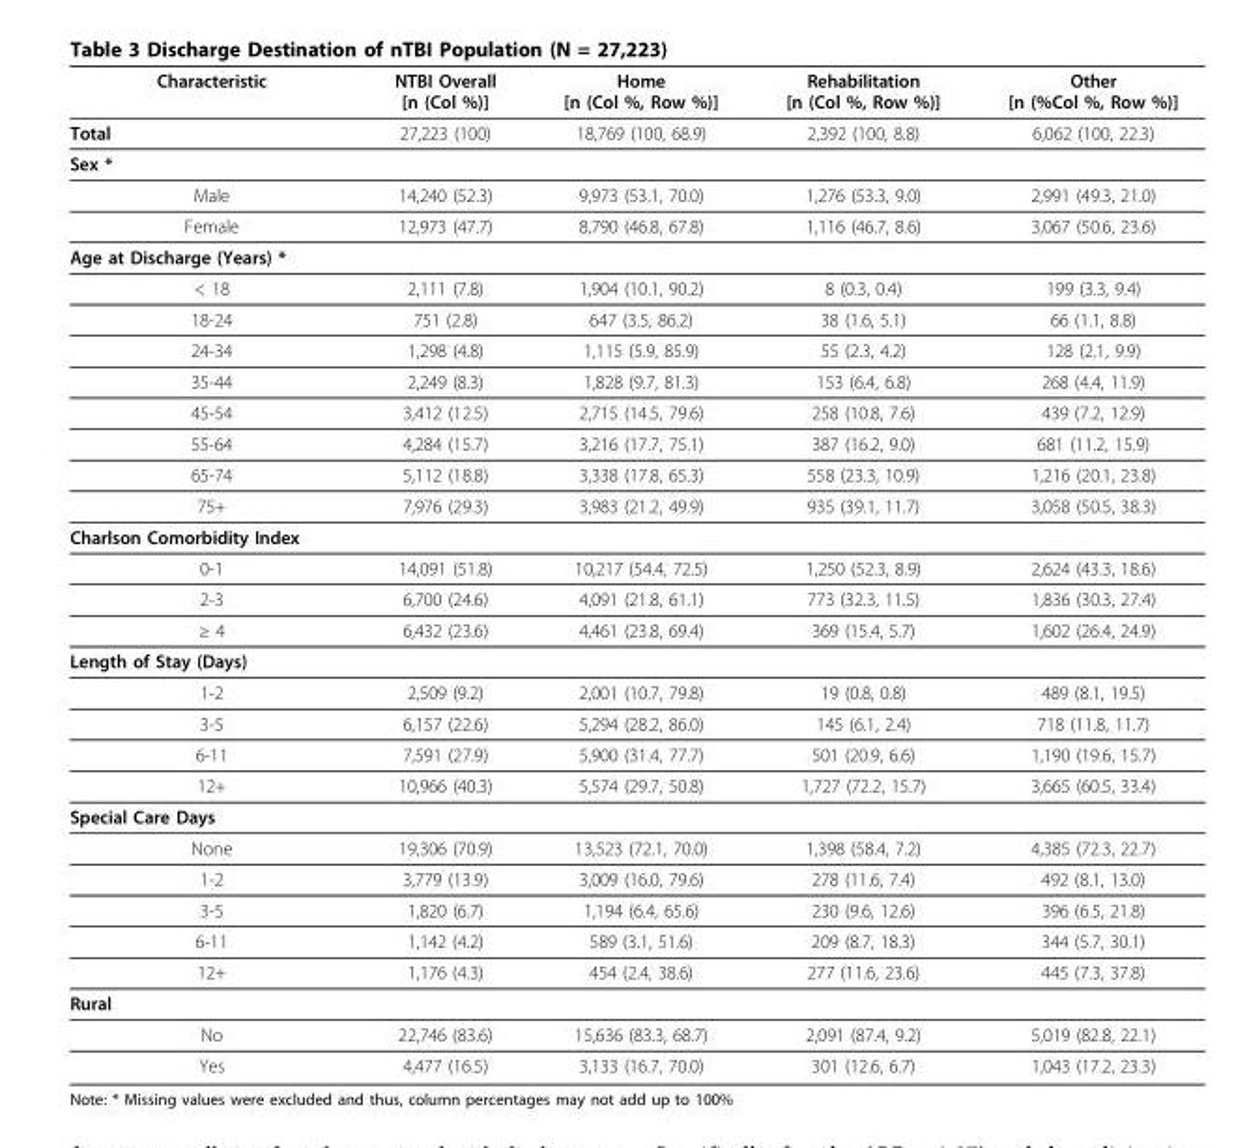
<table><thead><tr><td>Characteristic</td><td>NTBI Overall [n (Col %)]</td><td>Home [n (Col %, Row %)]</td><td>Rehabilitation [n (Col %, Row %)]</td><td>Other [n (%Col %, Row %)]</td></tr></thead><tbody><tr><td>Total</td><td>27,223 (100)</td><td>18,769 (100, 68.9)</td><td>2,392 (100, 8.8)</td><td>6,062 (100, 22.3)</td></tr><tr><td colspan="5">Sex *</td></tr><tr><td>Male</td><td>14,240 (52.3)</td><td>9,973 (53.1, 70.0)</td><td>1,276 (53.3, 9.0)</td><td>2,991 (49.3, 21.0)</td></tr><tr><td>Female</td><td>12,973 (47.7)</td><td>8,790 (46.8, 67.8)</td><td>1,116 (46.7, 8.6)</td><td>3,067 (50.6, 23.6)</td></tr><tr><td colspan="5">Age at Discharge (Years) *</td></tr><tr><td>&lt; 18</td><td>2,111 (7.8)</td><td>1,904 (10.1, 90.2)</td><td>8 (0.3, 0.4)</td><td>199 (3.3, 9.4)</td></tr><tr><td>18-24</td><td>751 (2.8)</td><td>647 (3.5, 86.2)</td><td>38 (1.6, 5.1)</td><td>66 (1.1, 8.8)</td></tr><tr><td>24-34</td><td>1,298 (4.8)</td><td>1,115 (5.9, 85.9)</td><td>55 (2.3, 4.2)</td><td>128 (2.1, 9.9)</td></tr><tr><td>35-44</td><td>2,249 (8.3)</td><td>1,828 (9.7, 81.3)</td><td>153 (6.4, 6.8)</td><td>268 (4.4, 11.9)</td></tr><tr><td>45-54</td><td>3,412 (12.5)</td><td>2,715 (14.5, 79.6)</td><td>258 (10.8, 7.6)</td><td>439 (7.2, 12.9)</td></tr><tr><td>55-64</td><td>4,284 (15.7)</td><td>3,216 (17.7, 75.1)</td><td>387 (16.2, 9.0)</td><td>681 (11.2, 15.9)</td></tr><tr><td>65-74</td><td>5,112 (18.8)</td><td>3,338 (17.8, 65.3)</td><td>558 (23.3, 10.9)</td><td>1,216 (20.1, 23.8)</td></tr><tr><td>75+</td><td>7,976 (29.3)</td><td>3,983 (21.2, 49.9)</td><td>935 (39.1, 11.7)</td><td>3,058 (50.5, 38.3)</td></tr><tr><td colspan="5">Charlson Comorbidity Index</td></tr><tr><td>0-1</td><td>14,091 (51.8)</td><td>10,217 (54.4, 72.5)</td><td>1,250 (52.3, 8.9)</td><td>2,624 (43.3, 18.6)</td></tr><tr><td>2-3</td><td>6,700 (24.6)</td><td>4,091 (21.8, 61.1)</td><td>773 (32.3, 11.5)</td><td>1,836 (30.3, 27.4)</td></tr><tr><td>≥ 4</td><td>6,432 (23.6)</td><td>4,461 (23.8, 69.4)</td><td>369 (15.4, 5.7)</td><td>1,602 (26.4, 24.9)</td></tr><tr><td colspan="5">Length of Stay (Days)</td></tr><tr><td>1-2</td><td>2,509 (9.2)</td><td>2,001 (10.7, 79.8)</td><td>19 (0.8, 0.8)</td><td>489 (8.1, 19.5)</td></tr><tr><td>3-5</td><td>6,157 (22.6)</td><td>5,294 (28.2, 86.0)</td><td>145 (6.1, 2.4)</td><td>718 (11.8, 11.7)</td></tr><tr><td>6-11</td><td>7,591 (27.9)</td><td>5,900 (31.4, 77.7)</td><td>501 (20.9, 6.6)</td><td>1,190 (19.6, 15.7)</td></tr><tr><td>12+</td><td>10,966 (40.3)</td><td>5,574 (29.7, 50.8)</td><td>1,727 (72.2, 15.7)</td><td>3,665 (60.5, 33.4)</td></tr><tr><td colspan="5">Special Care Days</td></tr><tr><td>None</td><td>19,306 (70.9)</td><td>13,523 (72.1, 70.0)</td><td>1,398 (58.4, 7.2)</td><td>4,385 (72.3, 22.7)</td></tr><tr><td>1-2</td><td>3,779 (13.9)</td><td>3,009 (16.0, 79.6)</td><td>278 (11.6, 7.4)</td><td>492 (8.1, 13.0)</td></tr><tr><td>3-5</td><td>1,820 (6.7)</td><td>1,194 (6.4, 65.6)</td><td>230 (9.6, 12.6)</td><td>396 (6.5, 21.8)</td></tr><tr><td>6-11</td><td>1,142 (4.2)</td><td>589 (3.1, 51.6)</td><td>209 (8.7, 18.3)</td><td>344 (5.7, 30.1)</td></tr><tr><td>12+</td><td>1,176 (4.3)</td><td>454 (2.4, 38.6)</td><td>277 (11.6, 23.6)</td><td>445 (7.3, 37.8)</td></tr><tr><td colspan="5">Rural</td></tr><tr><td>No</td><td>22,746 (83.6)</td><td>15,636 (83.3, 68.7)</td><td>2,091 (87.4, 9.2)</td><td>5,019 (82.8, 22.1)</td></tr><tr><td>Yes</td><td>4,477 (16.5)</td><td>3,133 (16.7, 70.0)</td><td>301 (12.6, 6.7)</td><td>1,043 (17.2, 23.3)</td></tr></tbody></table>